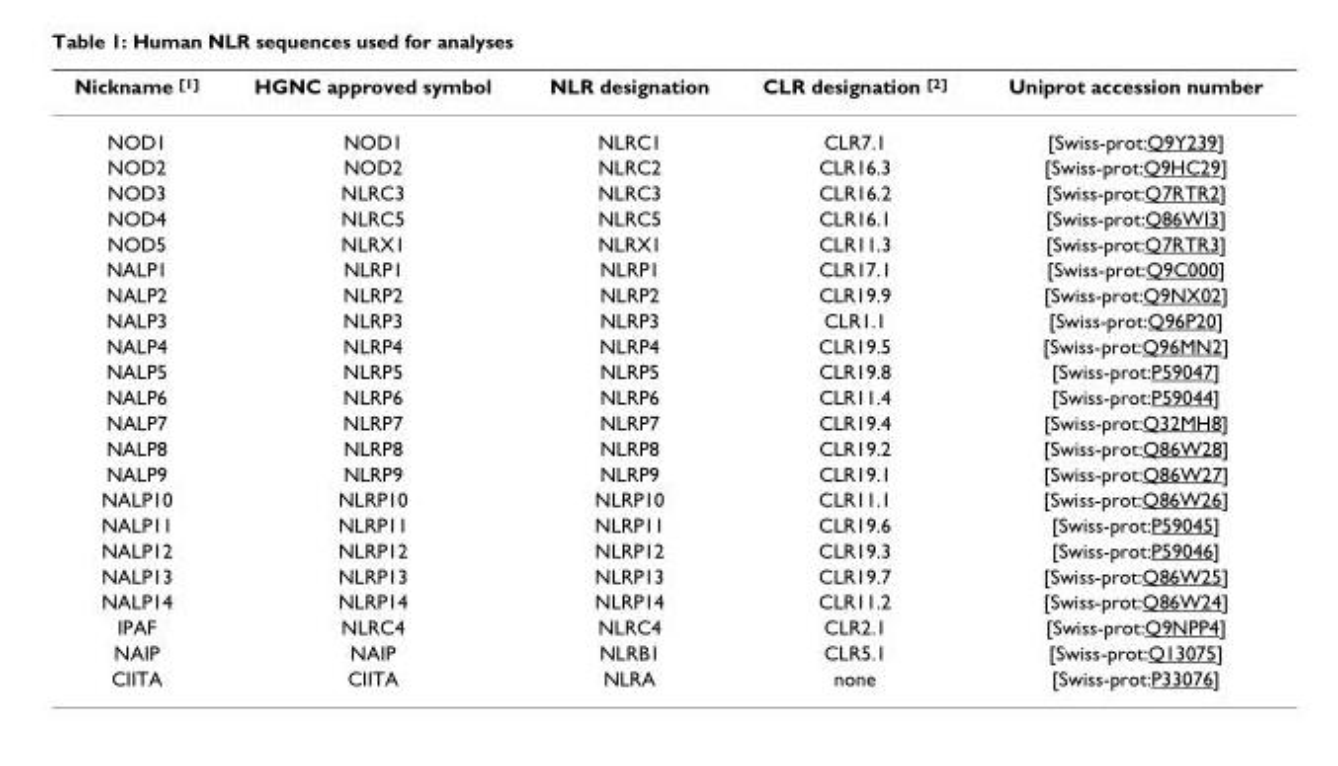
<table><thead><tr><td>Nickname <sup>[1]</sup></td><td>HGNC approved symbol</td><td>NLR designation</td><td>CLR designation <sup>[2]</sup></td><td>Uniprot accession number</td></tr></thead><tbody><tr><td>NOD1</td><td>NOD1</td><td>NLRC1</td><td>CLR7.1</td><td>[Swiss-prot:Q9Y239]</td></tr><tr><td>NOD2</td><td>NOD2</td><td>NLRC2</td><td>CLR16.3</td><td>[Swiss-prot:Q9HC29]</td></tr><tr><td>NOD3</td><td>NLRC3</td><td>NLRC3</td><td>CLR16.2</td><td>[Swiss-prot:Q7RTR2]</td></tr><tr><td>NOD4</td><td>NLRC5</td><td>NLRC5</td><td>CLR16.1</td><td>[Swiss-prot:Q86WI3]</td></tr><tr><td>NOD5</td><td>NLRX1</td><td>NLRX1</td><td>CLR11.3</td><td>[Swiss-prot:Q7RTR3]</td></tr><tr><td>NALP1</td><td>NLRP1</td><td>NLRP1</td><td>CLR17.1</td><td>[Swiss-prot:Q9C000]</td></tr><tr><td>NALP2</td><td>NLRP2</td><td>NLRP2</td><td>CLR19.9</td><td>[Swiss-prot:Q9NX02]</td></tr><tr><td>NALP3</td><td>NLRP3</td><td>NLRP3</td><td>CLR1.1</td><td>[Swiss-prot:Q96P20]</td></tr><tr><td>NALP4</td><td>NLRP4</td><td>NLRP4</td><td>CLR19.5</td><td>[Swiss-prot:Q96MN2]</td></tr><tr><td>NALP5</td><td>NLRP5</td><td>NLRP5</td><td>CLR19.8</td><td>[Swiss-prot:P59047]</td></tr><tr><td>NALP6</td><td>NLRP6</td><td>NLRP6</td><td>CLR11.4</td><td>[Swiss-prot:P59044]</td></tr><tr><td>NALP7</td><td>NLRP7</td><td>NLRP7</td><td>CLR19.4</td><td>[Swiss-prot:Q32MH8]</td></tr><tr><td>NALP8</td><td>NLRP8</td><td>NLRP8</td><td>CLR19.2</td><td>[Swiss-prot:Q86W28]</td></tr><tr><td>NALP9</td><td>NLRP9</td><td>NLRP9</td><td>CLR19.1</td><td>[Swiss-prot:Q86W27]</td></tr><tr><td>NALP10</td><td>NLRP10</td><td>NLRP10</td><td>CLR11.1</td><td>[Swiss-prot:Q86W26]</td></tr><tr><td>NALP11</td><td>NLRP11</td><td>NLRP11</td><td>CLR19.6</td><td>[Swiss-prot:P59045]</td></tr><tr><td>NALP12</td><td>NLRP12</td><td>NLRP12</td><td>CLR19.3</td><td>[Swiss-prot:P59046]</td></tr><tr><td>NALP13</td><td>NLRP13</td><td>NLRP13</td><td>CLR19.7</td><td>[Swiss-prot:Q86W25]</td></tr><tr><td>NALP14</td><td>NLRP14</td><td>NLRP14</td><td>CLR11.2</td><td>[Swiss-prot:Q86W24]</td></tr><tr><td>IPAF</td><td>NLRC4</td><td>NLRC4</td><td>CLR2.1</td><td>[Swiss-prot:Q9NPP4]</td></tr><tr><td>NAIP</td><td>NAIP</td><td>NLRB1</td><td>CLR5.1</td><td>[Swiss-prot:Q13075]</td></tr><tr><td>CIITA</td><td>CIITA</td><td>NLRA</td><td>none</td><td>[Swiss-prot:P33076]</td></tr></tbody></table>